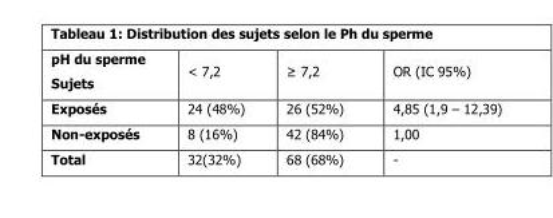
<table><tbody><tr><td>pH du sperme Sujets</td><td>&lt; 7,2</td><td>≥ 7,2</td><td>OR (IC 95%)</td></tr><tr><td>Exposés</td><td>24 (48%)</td><td>26 (52%)</td><td>4,85 (1,9 – 12,39)</td></tr><tr><td>Non-exposés</td><td>8 (16%)</td><td>42 (84%)</td><td>1,00</td></tr><tr><td>Total</td><td>32(32%)</td><td>68 (68%)</td><td>-</td></tr></tbody></table>